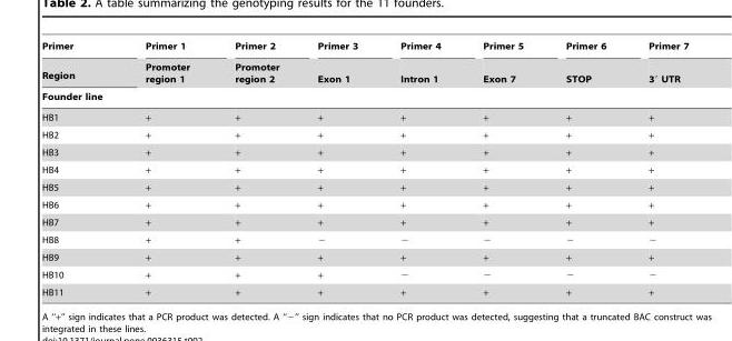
<table><thead><tr><td rowspan="3">Primer Region Founder line</td><td rowspan="3">Primer 1 Promoter region 1</td><td rowspan="3">Primer 2 Promoter region 2</td><td rowspan="3">Primer 3 Exon 1</td><td rowspan="3">Primer 4 Intron 1</td><td rowspan="3">Primer 5 Exon 7</td><td rowspan="3">Primer 6 STOP</td><td rowspan="3">Primer 7 3′ UTR</td></tr><tr></tr><tr></tr></thead><tbody><tr><td>HB1</td><td>+</td><td>+</td><td>+</td><td>+</td><td>+</td><td>+</td><td>+</td></tr><tr><td>HB2</td><td>+</td><td>+</td><td>+</td><td>+</td><td>+</td><td>+</td><td>+</td></tr><tr><td>HB3</td><td>+</td><td>+</td><td>+</td><td>+</td><td>+</td><td>+</td><td>+</td></tr><tr><td>HB4</td><td>+</td><td>+</td><td>+</td><td>+</td><td>+</td><td>+</td><td>+</td></tr><tr><td>HB5</td><td>+</td><td>+</td><td>+</td><td>+</td><td>+</td><td>+</td><td>+</td></tr><tr><td>HB6</td><td>+</td><td>+</td><td>+</td><td>+</td><td>+</td><td>+</td><td>+</td></tr><tr><td>HB7</td><td>+</td><td>+</td><td>+</td><td>+</td><td>+</td><td>+</td><td>+</td></tr><tr><td>HB8</td><td>+</td><td>+</td><td>−</td><td>−</td><td>−</td><td>−</td><td>−</td></tr><tr><td>HB9</td><td>+</td><td>+</td><td>+</td><td>+</td><td>+</td><td>+</td><td>+</td></tr><tr><td>HB10</td><td>+</td><td>+</td><td>+</td><td>−</td><td>−</td><td>−</td><td>−</td></tr><tr><td>HB11</td><td>+</td><td>+</td><td>+</td><td>+</td><td>+</td><td>+</td><td>+</td></tr></tbody></table>